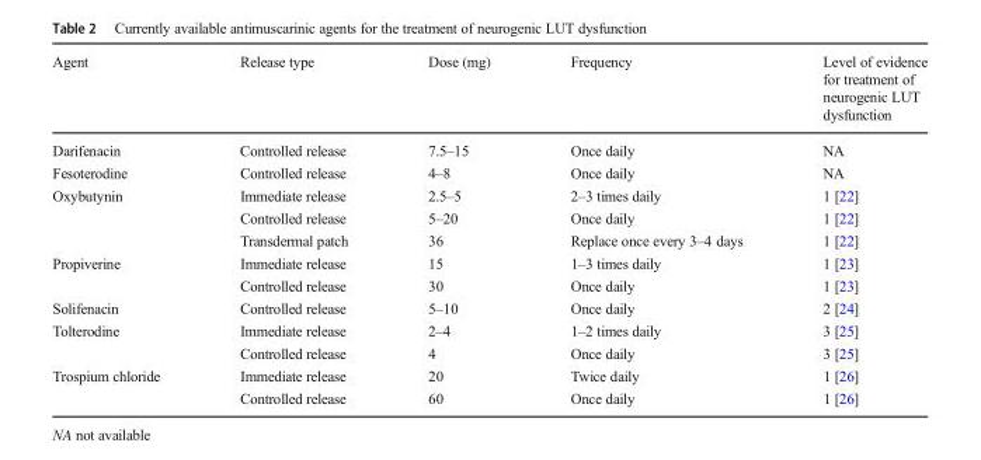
<table><thead><tr><td>Agent</td><td>Release type</td><td>Dose (mg)</td><td>Frequency</td><td>Level of evidence for treatment of neurogenic LUT dysfunction</td></tr></thead><tbody><tr><td>Darifenacin</td><td>Controlled release</td><td>7.5–15</td><td>Once daily</td><td>NA</td></tr><tr><td>Fesoterodine</td><td>Controlled release</td><td>4–8</td><td>Once daily</td><td>NA</td></tr><tr><td rowspan="3">Oxybutynin</td><td>Immediate release</td><td>2.5–5</td><td>2–3 times daily</td><td>1 [22]</td></tr><tr><td>Controlled release</td><td>5–20</td><td>Once daily</td><td>1 [22]</td></tr><tr><td>Transdermal patch</td><td>36</td><td>Replace once every 3–4 days</td><td>1 [22]</td></tr><tr><td rowspan="2">Propiverine</td><td>Immediate release</td><td>15</td><td>1–3 times daily</td><td>1 [23]</td></tr><tr><td>Controlled release</td><td>30</td><td>Once daily</td><td>1 [23]</td></tr><tr><td>Solifenacin</td><td>Controlled release</td><td>5–10</td><td>Once daily</td><td>2 [24]</td></tr><tr><td rowspan="2">Tolterodine</td><td>Immediate release</td><td>2–4</td><td>1–2 times daily</td><td>3 [25]</td></tr><tr><td>Controlled release</td><td>4</td><td>Once daily</td><td>3 [25]</td></tr><tr><td rowspan="2">Trospium chloride</td><td>Immediate release</td><td>20</td><td>Twice daily</td><td>1 [26]</td></tr><tr><td>Controlled release</td><td>60</td><td>Once daily</td><td>1 [26]</td></tr></tbody></table>